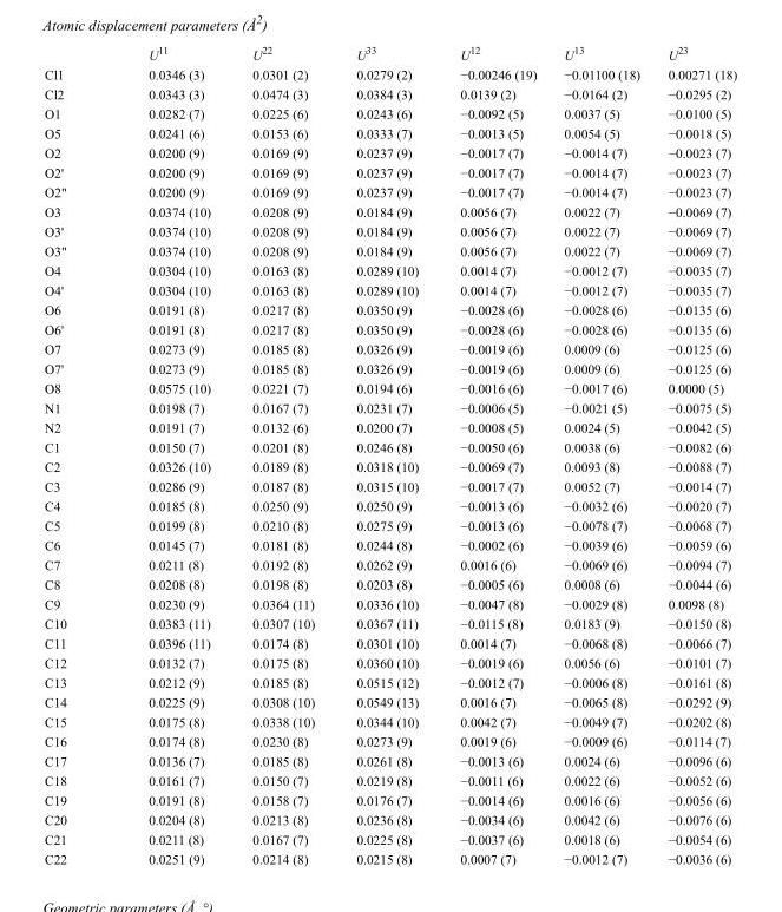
<table><thead><tr><td></td><td>U<sup>11</sup></td><td>U<sup>22</sup></td><td>U<sup>33</sup></td><td>U<sup>12</sup></td><td>U<sup>13</sup></td><td>U<sup>23</sup></td></tr></thead><tbody><tr><td>Cl1</td><td>0.0346 (3)</td><td>0.0301 (2)</td><td>0.0279 (2)</td><td>−0.00246 (19)</td><td>−0.01100 (18)</td><td>0.00271 (18)</td></tr><tr><td>Cl2</td><td>0.0343 (3)</td><td>0.0474 (3)</td><td>0.0384 (3)</td><td>0.0139 (2)</td><td>−0.0164 (2)</td><td>−0.0295 (2)</td></tr><tr><td>O1</td><td>0.0282 (7)</td><td>0.0225 (6)</td><td>0.0243 (6)</td><td>−0.0092 (5)</td><td>0.0037 (5)</td><td>−0.0100 (5)</td></tr><tr><td>O5</td><td>0.0241 (6)</td><td>0.0153 (6)</td><td>0.0333 (7)</td><td>−0.0013 (5)</td><td>0.0054 (5)</td><td>−0.0018 (5)</td></tr><tr><td>O2</td><td>0.0200 (9)</td><td>0.0169 (9)</td><td>0.0237 (9)</td><td>−0.0017 (7)</td><td>−0.0014 (7)</td><td>−0.0023 (7)</td></tr><tr><td>O2&#x27;</td><td>0.0200 (9)</td><td>0.0169 (9)</td><td>0.0237 (9)</td><td>−0.0017 (7)</td><td>−0.0014 (7)</td><td>−0.0023 (7)</td></tr><tr><td>O2&quot;</td><td>0.0200 (9)</td><td>0.0169 (9)</td><td>0.0237 (9)</td><td>−0.0017 (7)</td><td>−0.0014 (7)</td><td>−0.0023 (7)</td></tr><tr><td>O3</td><td>0.0374 (10)</td><td>0.0208 (9)</td><td>0.0184 (9)</td><td>0.0056 (7)</td><td>0.0022 (7)</td><td>−0.0069 (7)</td></tr><tr><td>O3&#x27;</td><td>0.0374 (10)</td><td>0.0208 (9)</td><td>0.0184 (9)</td><td>0.0056 (7)</td><td>0.0022 (7)</td><td>−0.0069 (7)</td></tr><tr><td>O3&quot;</td><td>0.0374 (10)</td><td>0.0208 (9)</td><td>0.0184 (9)</td><td>0.0056 (7)</td><td>0.0022 (7)</td><td>−0.0069 (7)</td></tr><tr><td>O4</td><td>0.0304 (10)</td><td>0.0163 (8)</td><td>0.0289 (10)</td><td>0.0014 (7)</td><td>−0.0012 (7)</td><td>−0.0035 (7)</td></tr><tr><td>O4&#x27;</td><td>0.0304 (10)</td><td>0.0163 (8)</td><td>0.0289 (10)</td><td>0.0014 (7)</td><td>−0.0012 (7)</td><td>−0.0035 (7)</td></tr><tr><td>O6</td><td>0.0191 (8)</td><td>0.0217 (8)</td><td>0.0350 (9)</td><td>−0.0028 (6)</td><td>−0.0028 (6)</td><td>−0.0135 (6)</td></tr><tr><td>O6&#x27;</td><td>0.0191 (8)</td><td>0.0217 (8)</td><td>0.0350 (9)</td><td>−0.0028 (6)</td><td>−0.0028 (6)</td><td>−0.0135 (6)</td></tr><tr><td>O7</td><td>0.0273 (9)</td><td>0.0185 (8)</td><td>0.0326 (9)</td><td>−0.0019 (6)</td><td>0.0009 (6)</td><td>−0.0125 (6)</td></tr><tr><td>O7&#x27;</td><td>0.0273 (9)</td><td>0.0185 (8)</td><td>0.0326 (9)</td><td>−0.0019 (6)</td><td>0.0009 (6)</td><td>−0.0125 (6)</td></tr><tr><td>O8</td><td>0.0575 (10)</td><td>0.0221 (7)</td><td>0.0194 (6)</td><td>−0.0016 (6)</td><td>−0.0017 (6)</td><td>0.0000 (5)</td></tr><tr><td>N1</td><td>0.0198 (7)</td><td>0.0167 (7)</td><td>0.0231 (7)</td><td>−0.0006 (5)</td><td>−0.0021 (5)</td><td>−0.0075 (5)</td></tr><tr><td>N2</td><td>0.0191 (7)</td><td>0.0132 (6)</td><td>0.0200 (7)</td><td>−0.0008 (5)</td><td>0.0024 (5)</td><td>−0.0042 (5)</td></tr><tr><td>C1</td><td>0.0150 (7)</td><td>0.0201 (8)</td><td>0.0246 (8)</td><td>−0.0050 (6)</td><td>0.0038 (6)</td><td>−0.0082 (6)</td></tr><tr><td>C2</td><td>0.0326 (10)</td><td>0.0189 (8)</td><td>0.0318 (10)</td><td>−0.0069 (7)</td><td>0.0093 (8)</td><td>−0.0088 (7)</td></tr><tr><td>C3</td><td>0.0286 (9)</td><td>0.0187 (8)</td><td>0.0315 (10)</td><td>−0.0017 (7)</td><td>0.0052 (7)</td><td>−0.0014 (7)</td></tr><tr><td>C4</td><td>0.0185 (8)</td><td>0.0250 (9)</td><td>0.0250 (9)</td><td>−0.0013 (6)</td><td>−0.0032 (6)</td><td>−0.0020 (7)</td></tr><tr><td>C5</td><td>0.0199 (8)</td><td>0.0210 (8)</td><td>0.0275 (9)</td><td>−0.0013 (6)</td><td>−0.0078 (7)</td><td>−0.0068 (7)</td></tr><tr><td>C6</td><td>0.0145 (7)</td><td>0.0181 (8)</td><td>0.0244 (8)</td><td>−0.0002 (6)</td><td>−0.0039 (6)</td><td>−0.0059 (6)</td></tr><tr><td>C7</td><td>0.0211 (8)</td><td>0.0192 (8)</td><td>0.0262 (9)</td><td>0.0016 (6)</td><td>−0.0069 (6)</td><td>−0.0094 (7)</td></tr><tr><td>C8</td><td>0.0208 (8)</td><td>0.0198 (8)</td><td>0.0203 (8)</td><td>−0.0005 (6)</td><td>0.0008 (6)</td><td>−0.0044 (6)</td></tr><tr><td>C9</td><td>0.0230 (9)</td><td>0.0364 (11)</td><td>0.0336 (10)</td><td>−0.0047 (8)</td><td>−0.0029 (8)</td><td>0.0098 (8)</td></tr><tr><td>C10</td><td>0.0383 (11)</td><td>0.0307 (10)</td><td>0.0367 (11)</td><td>−0.0115 (8)</td><td>0.0183 (9)</td><td>−0.0150 (8)</td></tr><tr><td>C11</td><td>0.0396 (11)</td><td>0.0174 (8)</td><td>0.0301 (10)</td><td>0.0014 (7)</td><td>−0.0068 (8)</td><td>−0.0066 (7)</td></tr><tr><td>C12</td><td>0.0132 (7)</td><td>0.0175 (8)</td><td>0.0360 (10)</td><td>−0.0019 (6)</td><td>0.0056 (6)</td><td>−0.0101 (7)</td></tr><tr><td>C13</td><td>0.0212 (9)</td><td>0.0185 (8)</td><td>0.0515 (12)</td><td>−0.0012 (7)</td><td>−0.0006 (8)</td><td>−0.0161 (8)</td></tr><tr><td>C14</td><td>0.0225 (9)</td><td>0.0308 (10)</td><td>0.0549 (13)</td><td>0.0016 (7)</td><td>−0.0065 (8)</td><td>−0.0292 (9)</td></tr><tr><td>C15</td><td>0.0175 (8)</td><td>0.0338 (10)</td><td>0.0344 (10)</td><td>0.0042 (7)</td><td>−0.0049 (7)</td><td>−0.0202 (8)</td></tr><tr><td>C16</td><td>0.0174 (8)</td><td>0.0230 (8)</td><td>0.0273 (9)</td><td>0.0019 (6)</td><td>−0.0009 (6)</td><td>−0.0114 (7)</td></tr><tr><td>C17</td><td>0.0136 (7)</td><td>0.0185 (8)</td><td>0.0261 (8)</td><td>−0.0013 (6)</td><td>0.0024 (6)</td><td>−0.0096 (6)</td></tr><tr><td>C18</td><td>0.0161 (7)</td><td>0.0150 (7)</td><td>0.0219 (8)</td><td>−0.0011 (6)</td><td>0.0022 (6)</td><td>−0.0052 (6)</td></tr><tr><td>C19</td><td>0.0191 (8)</td><td>0.0158 (7)</td><td>0.0176 (7)</td><td>−0.0014 (6)</td><td>0.0016 (6)</td><td>−0.0056 (6)</td></tr><tr><td>C20</td><td>0.0204 (8)</td><td>0.0213 (8)</td><td>0.0236 (8)</td><td>−0.0034 (6)</td><td>0.0042 (6)</td><td>−0.0076 (6)</td></tr><tr><td>C21</td><td>0.0211 (8)</td><td>0.0167 (7)</td><td>0.0225 (8)</td><td>−0.0037 (6)</td><td>0.0018 (6)</td><td>−0.0054 (6)</td></tr><tr><td>C22</td><td>0.0251 (9)</td><td>0.0214 (8)</td><td>0.0215 (8)</td><td>0.0007 (7)</td><td>−0.0012 (7)</td><td>−0.0036 (6)</td></tr></tbody></table>